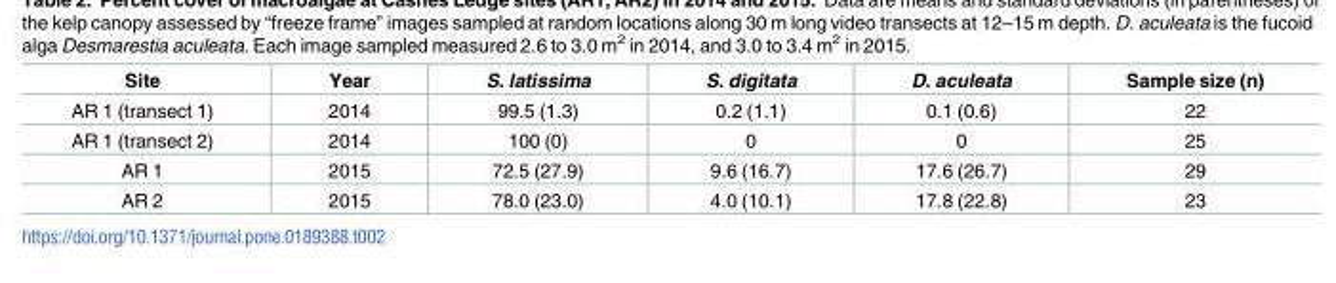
<table><thead><tr><td>Site</td><td>Year</td><td>S. latissima</td><td>S. digitata</td><td>D. aculeata</td><td>Sample size (n)</td></tr></thead><tbody><tr><td>AR 1 (transect 1)</td><td>2014</td><td>99.5 (1.3)</td><td>0.2 (1.1)</td><td>0.1 (0.6)</td><td>22</td></tr><tr><td>AR 1 (transect 2)</td><td>2014</td><td>100 (0)</td><td>0</td><td>0</td><td>25</td></tr><tr><td>AR 1</td><td>2015</td><td>72.5 (27.9)</td><td>9.6 (16.7)</td><td>17.6 (26.7)</td><td>29</td></tr><tr><td>AR 2</td><td>2015</td><td>78.0 (23.0)</td><td>4.0 (10.1)</td><td>17.8 (22.8)</td><td>23</td></tr></tbody></table>